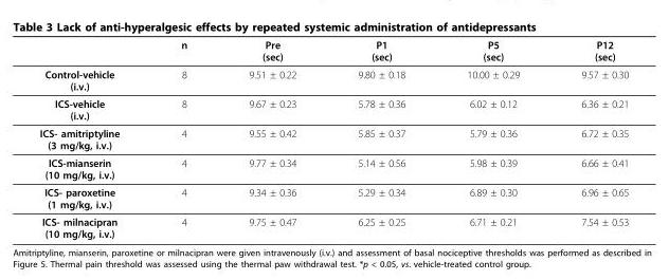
<table><thead><tr><td></td><td>n</td><td>Pre (sec)</td><td>P1 (sec)</td><td>P5 (sec)</td><td>P12 (sec)</td></tr></thead><tbody><tr><td>Control-vehicle (i.v.)</td><td>8</td><td>9.51 ± 0.22</td><td>9.80 ± 0.18</td><td>10.00 ± 0.29</td><td>9.57 ± 0.30</td></tr><tr><td>ICS-vehicle (i.v.)</td><td>8</td><td>9.67 ± 0.23</td><td>5.78 ± 0.36</td><td>6.02 ± 0.12</td><td>6.36 ± 0.21</td></tr><tr><td>ICS- amitriptyline (3 mg/kg, i.v.)</td><td>4</td><td>9.55 ± 0.42</td><td>5.85 ± 0.37</td><td>5.79 ± 0.36</td><td>6.72 ± 0.35</td></tr><tr><td>ICS-mianserin (10 mg/kg, i.v.)</td><td>4</td><td>9.77 ± 0.34</td><td>5.14 ± 0.56</td><td>5.98 ± 0.39</td><td>6.66 ± 0.41</td></tr><tr><td>ICS- paroxetine (1 mg/kg, i.v.)</td><td>4</td><td>9.34 ± 0.36</td><td>5.29 ± 0.34</td><td>6.89 ± 0.30</td><td>6.96 ± 0.65</td></tr><tr><td>ICS- milnacipran (10 mg/kg, i.v.)</td><td>4</td><td>9.75 ± 0.47</td><td>6.25 ± 0.25</td><td>6.71 ± 0.21</td><td>7.54 ± 0.53</td></tr></tbody></table>